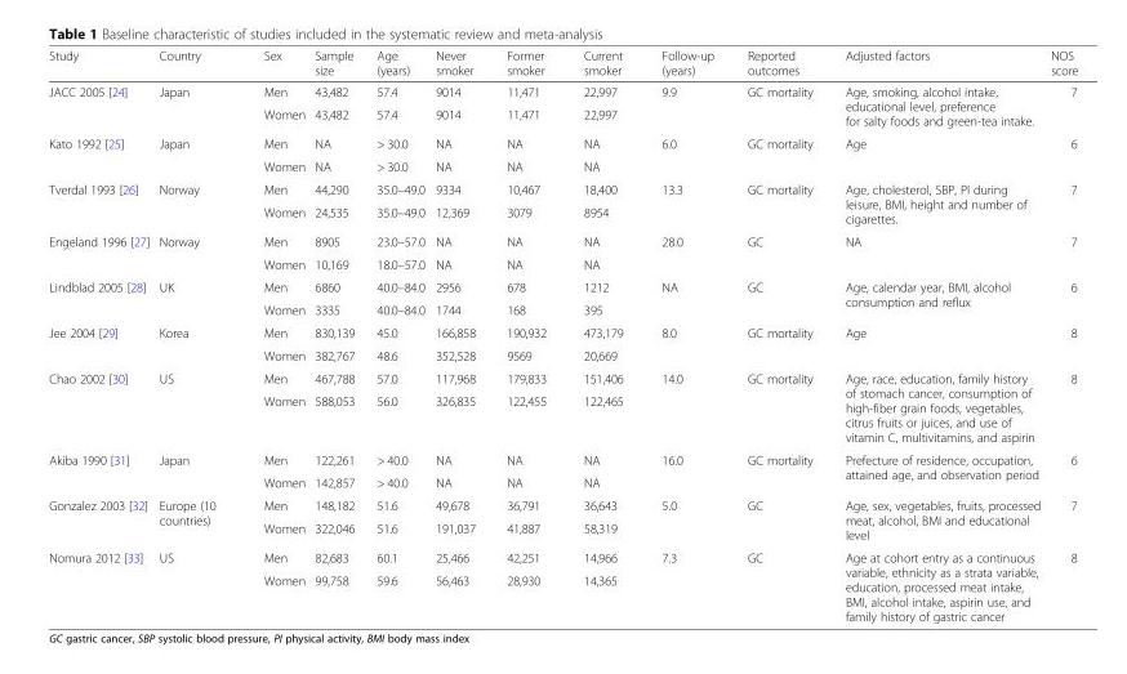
<table><thead><tr><td>Study</td><td>Country</td><td>Sex</td><td>Sample size</td><td>Age (years)</td><td>Never smoker</td><td>Former smoker</td><td>Current smoker</td><td>Follow-up (years)</td><td>Reported outcomes</td><td>Adjusted factors</td><td>NOS score</td></tr></thead><tbody><tr><td rowspan="2">JACC 2005 [24]</td><td rowspan="2">Japan</td><td>Men</td><td>43,482</td><td>57.4</td><td>9014</td><td>11,471</td><td>22,997</td><td rowspan="2">9.9</td><td rowspan="2">GC mortality</td><td rowspan="2">Age, smoking, alcohol intake, educational level, preference for salty foods and green-tea intake.</td><td rowspan="2">7</td></tr><tr><td>Women</td><td>43,482</td><td>57.4</td><td>9014</td><td>11,471</td><td>22,997</td></tr><tr><td rowspan="2">Kato 1992 [25]</td><td rowspan="2">Japan</td><td>Men</td><td>NA</td><td>&gt; 30.0</td><td>NA</td><td>NA</td><td>NA</td><td rowspan="2">6.0</td><td rowspan="2">GC mortality</td><td rowspan="2">Age</td><td rowspan="2">6</td></tr><tr><td>Women</td><td>NA</td><td>&gt; 30.0</td><td>NA</td><td>NA</td><td>NA</td></tr><tr><td rowspan="2">Tverdal 1993 [26]</td><td rowspan="2">Norway</td><td>Men</td><td>44,290</td><td>35.0–49.0</td><td>9334</td><td>10,467</td><td>18,400</td><td rowspan="2">13.3</td><td rowspan="2">GC mortality</td><td rowspan="2">Age, cholesterol, SBP, PI during leisure, BMI, height and number of cigarettes.</td><td rowspan="2">7</td></tr><tr><td>Women</td><td>24,535</td><td>35.0–49.0</td><td>12,369</td><td>3079</td><td>8954</td></tr><tr><td rowspan="2">Engeland 1996 [27]</td><td rowspan="2">Norway</td><td>Men</td><td>8905</td><td>23.0–57.0</td><td>NA</td><td>NA</td><td>NA</td><td rowspan="2">28.0</td><td rowspan="2">GC</td><td rowspan="2">NA</td><td rowspan="2">7</td></tr><tr><td>Women</td><td>10,169</td><td>18.0–57.0</td><td>NA</td><td>NA</td><td>NA</td></tr><tr><td rowspan="2">Lindblad 2005 [28]</td><td rowspan="2">UK</td><td>Men</td><td>6860</td><td>40.0–84.0</td><td>2956</td><td>678</td><td>1212</td><td rowspan="2">NA</td><td rowspan="2">GC</td><td rowspan="2">Age, calendar year, BMI, alcohol consumption and reflux</td><td rowspan="2">6</td></tr><tr><td>Women</td><td>3335</td><td>40.0–84.0</td><td>1744</td><td>168</td><td>395</td></tr><tr><td rowspan="2">Jee 2004 [29]</td><td rowspan="2">Korea</td><td>Men</td><td>830,139</td><td>45.0</td><td>166,858</td><td>190,932</td><td>473,179</td><td rowspan="2">8.0</td><td rowspan="2">GC mortality</td><td rowspan="2">Age</td><td rowspan="2">8</td></tr><tr><td>Women</td><td>382,767</td><td>48.6</td><td>352,528</td><td>9569</td><td>20,669</td></tr><tr><td rowspan="2">Chao 2002 [30]</td><td rowspan="2">US</td><td>Men</td><td>467,788</td><td>57.0</td><td>117,968</td><td>179,833</td><td>151,406</td><td rowspan="2">14.0</td><td rowspan="2">GC mortality</td><td rowspan="2">Age, race, education, family history of stomach cancer, consumption of high-fiber grain foods, vegetables, citrus fruits or juices, and use of vitamin C, multivitamins, and aspirin</td><td rowspan="2">8</td></tr><tr><td>Women</td><td>588,053</td><td>56.0</td><td>326,835</td><td>122,455</td><td>122,465</td></tr><tr><td rowspan="2">Akiba 1990 [31]</td><td rowspan="2">Japan</td><td>Men</td><td>122,261</td><td>&gt; 40.0</td><td>NA</td><td>NA</td><td>NA</td><td rowspan="2">16.0</td><td rowspan="2">GC mortality</td><td rowspan="2">Prefecture of residence, occupation, attained age, and observation period</td><td rowspan="2">6</td></tr><tr><td>Women</td><td>142,857</td><td>&gt; 40.0</td><td>NA</td><td>NA</td><td>NA</td></tr><tr><td rowspan="2">Gonzalez 2003 [32]</td><td rowspan="2">Europe (10 countries)</td><td>Men</td><td>148,182</td><td>51.6</td><td>49,678</td><td>36,791</td><td>36,643</td><td rowspan="2">5.0</td><td rowspan="2">GC</td><td rowspan="2">Age, sex, vegetables, fruits, processed meat, alcohol, BMI and educational level</td><td rowspan="2">7</td></tr><tr><td>Women</td><td>322,046</td><td>51.6</td><td>191,037</td><td>41,887</td><td>58,319</td></tr><tr><td rowspan="2">Nomura 2012 [33]</td><td rowspan="2">US</td><td>Men</td><td>82,683</td><td>60.1</td><td>25,466</td><td>42,251</td><td>14,966</td><td rowspan="2">7.3</td><td rowspan="2">GC</td><td rowspan="2">Age at cohort entry as a continuous variable, ethnicity as a strata variable, education, processed meat intake, BMI, alcohol intake, aspirin use, and family history of gastric cancer</td><td rowspan="2">8</td></tr><tr><td>Women</td><td>99,758</td><td>59.6</td><td>56,463</td><td>28,930</td><td>14,365</td></tr></tbody></table>